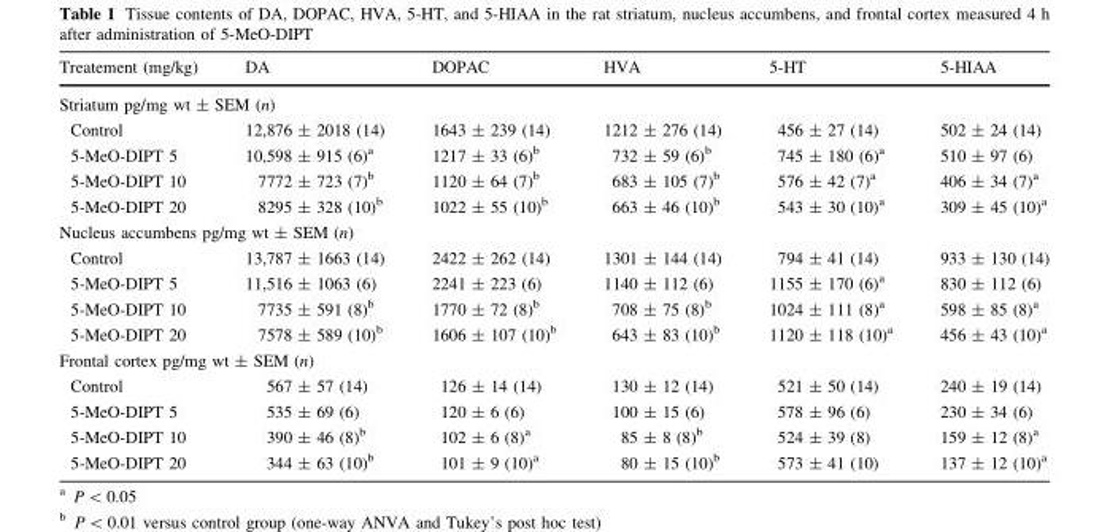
<table><thead><tr><td>Treatement (mg/kg)</td><td>DA</td><td>DOPAC</td><td>HVA</td><td>5-HT</td><td>5-HIAA</td></tr></thead><tbody><tr><td colspan="6">Striatum pg/mg wt ± SEM (n)</td></tr><tr><td>Control</td><td>12,876 ± 2018 (14)</td><td>1643 ± 239 (14)</td><td>1212 ± 276 (14)</td><td>456 ± 27 (14)</td><td>502 ± 24 (14)</td></tr><tr><td>5-MeO-DIPT 5</td><td>10,598 ± 915 (6)<sup>a</sup></td><td>1217 ± 33 (6)<sup>b</sup></td><td>732 ± 59 (6)<sup>b</sup></td><td>745 ± 180 (6)<sup>a</sup></td><td>510 ± 97 (6)</td></tr><tr><td>5-MeO-DIPT 10</td><td>7772 ± 723 (7)<sup>b</sup></td><td>1120 ± 64 (7)<sup>b</sup></td><td>683 ± 105 (7)<sup>b</sup></td><td>576 ± 42 (7)<sup>a</sup></td><td>406 ± 34 (7)<sup>a</sup></td></tr><tr><td>5-MeO-DIPT 20</td><td>8295 ± 328 (10)<sup>b</sup></td><td>1022 ± 55 (10)<sup>b</sup></td><td>663 ± 46 (10)<sup>b</sup></td><td>543 ± 30 (10)<sup>a</sup></td><td>309 ± 45 (10)<sup>a</sup></td></tr><tr><td colspan="6">Nucleus accumbens pg/mg wt ± SEM (n)</td></tr><tr><td>Control</td><td>13,787 ± 1663 (14)</td><td>2422 ± 262 (14)</td><td>1301 ± 144 (14)</td><td>794 ± 41 (14)</td><td>933 ± 130 (14)</td></tr><tr><td>5-MeO-DIPT 5</td><td>11,516 ± 1063 (6)</td><td>2241 ± 223 (6)</td><td>1140 ± 112 (6)</td><td>1155 ± 170 (6)<sup>a</sup></td><td>830 ± 112 (6)</td></tr><tr><td>5-MeO-DIPT 10</td><td>7735 ± 591 (8)<sup>b</sup></td><td>1770 ± 72 (8)<sup>b</sup></td><td>708 ± 75 (8)<sup>b</sup></td><td>1024 ± 111 (8)<sup>a</sup></td><td>598 ± 85 (8)<sup>a</sup></td></tr><tr><td>5-MeO-DIPT 20</td><td>7578 ± 589 (10)<sup>b</sup></td><td>1606 ± 107 (10)<sup>b</sup></td><td>643 ± 83 (10)<sup>b</sup></td><td>1120 ± 118 (10)<sup>a</sup></td><td>456 ± 43 (10)<sup>a</sup></td></tr><tr><td colspan="6">Frontal cortex pg/mg wt ± SEM (n)</td></tr><tr><td>Control</td><td>567 ± 57 (14)</td><td>126 ± 14 (14)</td><td>130 ± 12 (14)</td><td>521 ± 50 (14)</td><td>240 ± 19 (14)</td></tr><tr><td>5-MeO-DIPT 5</td><td>535 ± 69 (6)</td><td>120 ± 6 (6)</td><td>100 ± 15 (6)</td><td>578 ± 96 (6)</td><td>230 ± 34 (6)</td></tr><tr><td>5-MeO-DIPT 10</td><td>390 ± 46 (8)<sup>b</sup></td><td>102 ± 6 (8)<sup>a</sup></td><td>85 ± 8 (8)<sup>b</sup></td><td>524 ± 39 (8)</td><td>159 ± 12 (8)<sup>a</sup></td></tr><tr><td>5-MeO-DIPT 20</td><td>344 ± 63 (10)<sup>b</sup></td><td>101 ± 9 (10)<sup>a</sup></td><td>80 ± 15 (10)<sup>b</sup></td><td>573 ± 41 (10)</td><td>137 ± 12 (10)<sup>a</sup></td></tr></tbody></table>